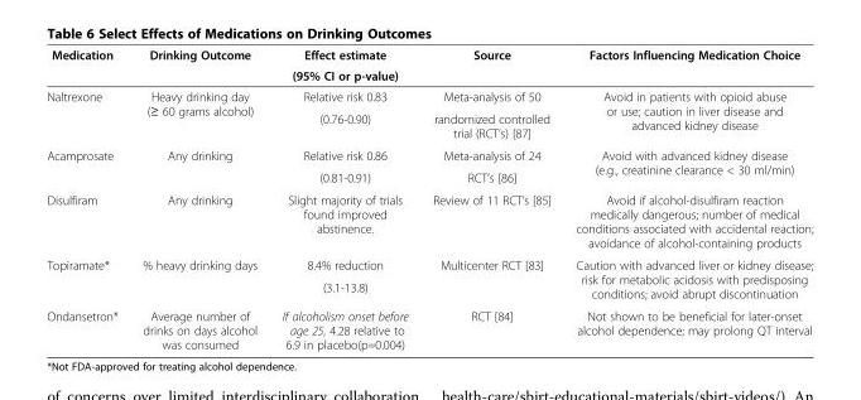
<table><thead><tr><td rowspan="2">Medication</td><td rowspan="2">Drinking Outcome</td><td rowspan="2">Effect estimate (95% CI or p-value)</td><td rowspan="2">Source</td><td rowspan="2">Factors Influencing Medication Choice</td></tr><tr></tr></thead><tbody><tr><td rowspan="2">Naltrexone</td><td rowspan="2">Heavy drinking day (≥ 60 grams alcohol)</td><td>Relative risk 0.83</td><td>Meta-analysis of 50</td><td rowspan="2">Avoid in patients with opioid abuse or use; caution in liver disease and advanced kidney disease</td></tr><tr><td>(0.76-0.90)</td><td>randomized controlled trial (RCT’s) [87]</td></tr><tr><td rowspan="2">Acamprosate</td><td rowspan="2">Any drinking</td><td>Relative risk 0.86</td><td>Meta-analysis of 24</td><td rowspan="2">Avoid with advanced kidney disease (e.g., creatinine clearance &lt; 30 ml/min)</td></tr><tr><td>(0.81-0.91)</td><td>RCT’s [86]</td></tr><tr><td>Disulfiram</td><td>Any drinking</td><td>Slight majority of trials found improved abstinence.</td><td>Review of 11 RCT’s [85]</td><td>Avoid if alcohol-disulfiram reaction medically dangerous; number of medical conditions associated with accidental reaction; avoidance of alcohol-containing products</td></tr><tr><td rowspan="2">Topiramate*</td><td rowspan="2">% heavy drinking days</td><td>8.4% reduction</td><td rowspan="2">Multicenter RCT [83]</td><td rowspan="2">Caution with advanced liver or kidney disease; risk for metabolic acidosis with predisposing conditions; avoid abrupt discontinuation</td></tr><tr><td>(3.1-13.8)</td></tr><tr><td>Ondansetron*</td><td>Average number of drinks on days alcohol was consumed</td><td>If alcoholism onset before age 25, 4.28 relative to 6.9 in placebo(p=0.004)</td><td>RCT [84]</td><td>Not shown to be beneficial for later-onset alcohol dependence; may prolong QT interval</td></tr></tbody></table>